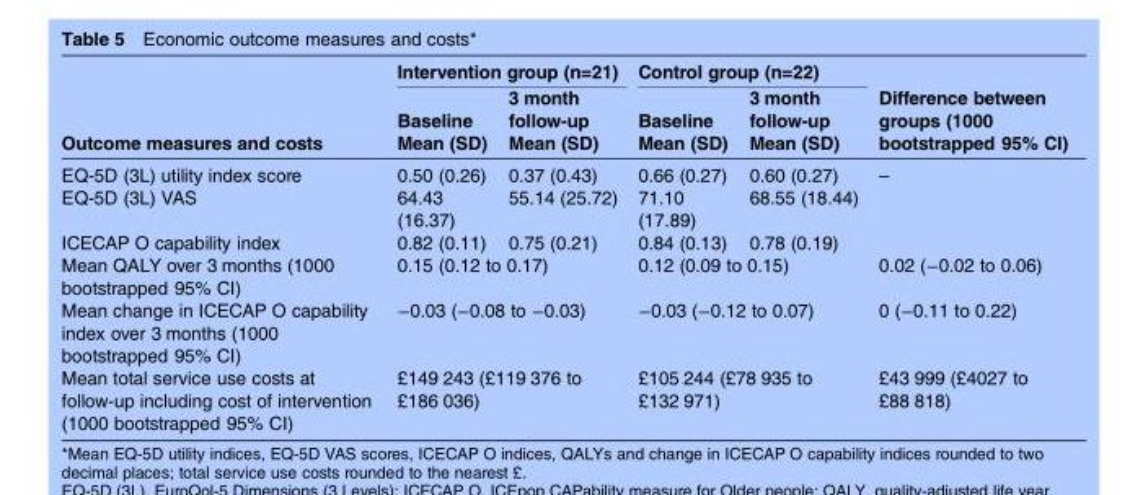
<table><thead><tr><td rowspan="2">Outcome measures and costs</td><td colspan="2">Intervention group (n=21)</td><td colspan="2">Control group (n=22)</td><td rowspan="2">Difference between groups (1000 bootstrapped 95% CI)</td></tr><tr><td>Baseline Mean (SD)</td><td>3 month follow-up Mean (SD)</td><td>Baseline Mean (SD)</td><td>3 month follow-up Mean (SD)</td></tr></thead><tbody><tr><td>EQ-5D (3L) utility index score</td><td>0.50 (0.26)</td><td>0.37 (0.43)</td><td>0.66 (0.27)</td><td>0.60 (0.27)</td><td rowspan="3">–</td></tr><tr><td>EQ-5D (3L) VAS</td><td>64.43 (16.37)</td><td>55.14 (25.72)</td><td>71.10 (17.89)</td><td>68.55 (18.44)</td></tr><tr><td>ICECAP O capability index</td><td>0.82 (0.11)</td><td>0.75 (0.21)</td><td>0.84 (0.13)</td><td>0.78 (0.19)</td></tr><tr><td>Mean QALY over 3 months (1000 bootstrapped 95% CI)</td><td colspan="2">0.15 (0.12 to 0.17)</td><td colspan="2">0.12 (0.09 to 0.15)</td><td>0.02 (−0.02 to 0.06)</td></tr><tr><td>Mean change in ICECAP O capability index over 3 months (1000 bootstrapped 95% CI)</td><td colspan="2">−0.03 (−0.08 to −0.03)</td><td colspan="2">−0.03 (−0.12 to 0.07)</td><td>0 (−0.11 to 0.22)</td></tr><tr><td>Mean total service use costs at follow-up including cost of intervention (1000 bootstrapped 95% CI)</td><td colspan="2">£149 243 (£119 376 to £186 036)</td><td colspan="2">£105 244 (£78 935 to £132 971)</td><td>£43 999 (£4027 to £88 818)</td></tr></tbody></table>